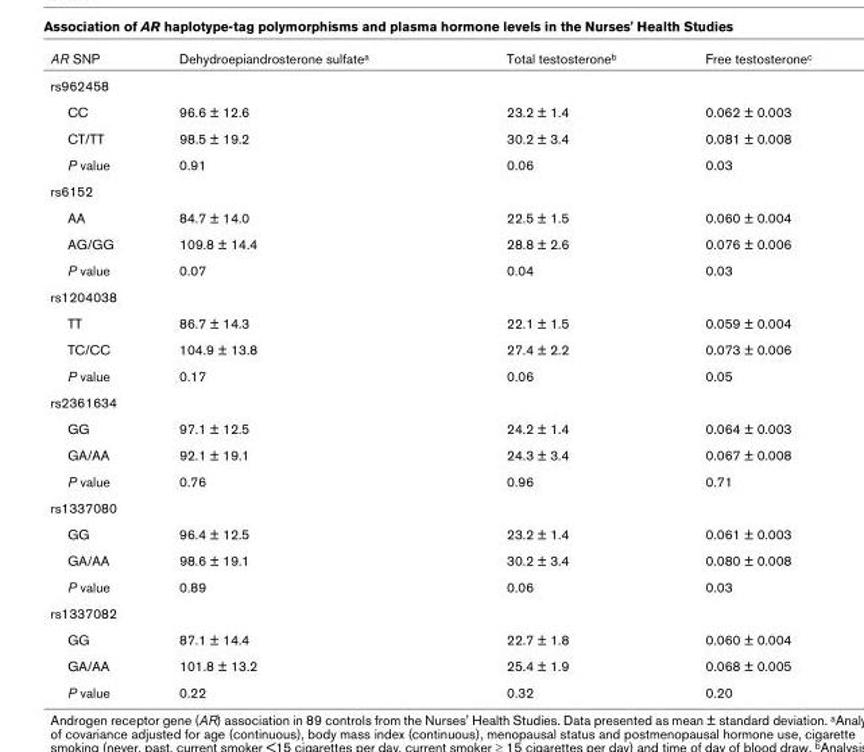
<table><thead><tr><td>AR SNP</td><td>Dehydroepiandrosterone sulfate<sup>a</sup></td><td>Total testosterone<sup>b</sup></td><td>Free testosterone<sup>c</sup></td></tr></thead><tbody><tr><td colspan="4">rs962458</td></tr><tr><td>CC</td><td>96.6 ± 12.6</td><td>23.2 ± 1.4</td><td>0.062 ± 0.003</td></tr><tr><td>CT/TT</td><td>98.5 ± 19.2</td><td>30.2 ± 3.4</td><td>0.081 ± 0.008</td></tr><tr><td>P value</td><td>0.91</td><td>0.06</td><td>0.03</td></tr><tr><td colspan="4">rs6152</td></tr><tr><td>AA</td><td>84.7 ± 14.0</td><td>22.5 ± 1.5</td><td>0.060 ± 0.004</td></tr><tr><td>AG/GG</td><td>109.8 ± 14.4</td><td>28.8 ± 2.6</td><td>0.076 ± 0.006</td></tr><tr><td>P value</td><td>0.07</td><td>0.04</td><td>0.03</td></tr><tr><td colspan="4">rs1204038</td></tr><tr><td>TT</td><td>86.7 ± 14.3</td><td>22.1 ± 1.5</td><td>0.059 ± 0.004</td></tr><tr><td>TC/CC</td><td>104.9 ± 13.8</td><td>27.4 ± 2.2</td><td>0.073 ± 0.006</td></tr><tr><td>P value</td><td>0.17</td><td>0.06</td><td>0.05</td></tr><tr><td colspan="4">rs2361634</td></tr><tr><td>GG</td><td>97.1 ± 12.5</td><td>24.2 ± 1.4</td><td>0.064 ± 0.003</td></tr><tr><td>GA/AA</td><td>92.1 ± 19.1</td><td>24.3 ± 3.4</td><td>0.067 ± 0.008</td></tr><tr><td>P value</td><td>0.76</td><td>0.96</td><td>0.71</td></tr><tr><td colspan="4">rs1337080</td></tr><tr><td>GG</td><td>96.4 ± 12.5</td><td>23.2 ± 1.4</td><td>0.061 ± 0.003</td></tr><tr><td>GA/AA</td><td>98.6 ± 19.1</td><td>30.2 ± 3.4</td><td>0.080 ± 0.008</td></tr><tr><td>P value</td><td>0.89</td><td>0.06</td><td>0.03</td></tr><tr><td colspan="4">rs1337082</td></tr><tr><td>GG</td><td>87.1 ± 14.4</td><td>22.7 ± 1.8</td><td>0.060 ± 0.004</td></tr><tr><td>GA/AA</td><td>101.8 ± 13.2</td><td>25.4 ± 1.9</td><td>0.068 ± 0.005</td></tr><tr><td>P value</td><td>0.22</td><td>0.32</td><td>0.20</td></tr></tbody></table>